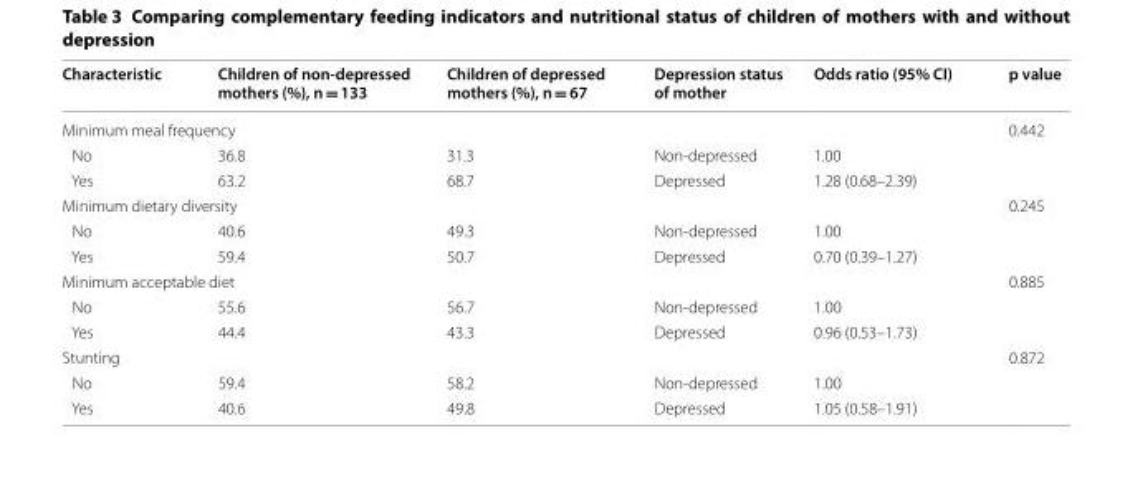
<table><thead><tr><td>Characteristic</td><td>Children of non-depressed mothers (%), n = 133</td><td>Children of depressed mothers (%), n = 67</td><td>Depression status of mother</td><td>Odds ratio (95% CI)</td><td>p value</td></tr></thead><tbody><tr><td colspan="5">Minimum meal frequency</td><td rowspan="3">0.442</td></tr><tr><td>No</td><td>36.8</td><td>31.3</td><td>Non-depressed</td><td>1.00</td></tr><tr><td>Yes</td><td>63.2</td><td>68.7</td><td>Depressed</td><td>1.28 (0.68–2.39)</td></tr><tr><td colspan="5">Minimum dietary diversity</td><td rowspan="3">0.245</td></tr><tr><td>No</td><td>40.6</td><td>49.3</td><td>Non-depressed</td><td>1.00</td></tr><tr><td>Yes</td><td>59.4</td><td>50.7</td><td>Depressed</td><td>0.70 (0.39–1.27)</td></tr><tr><td colspan="5">Minimum acceptable diet</td><td rowspan="3">0.885</td></tr><tr><td>No</td><td>55.6</td><td>56.7</td><td>Non-depressed</td><td>1.00</td></tr><tr><td>Yes</td><td>44.4</td><td>43.3</td><td>Depressed</td><td>0.96 (0.53–1.73)</td></tr><tr><td colspan="5">Stunting</td><td rowspan="3">0.872</td></tr><tr><td>No</td><td>59.4</td><td>58.2</td><td>Non-depressed</td><td>1.00</td></tr><tr><td>Yes</td><td>40.6</td><td>49.8</td><td>Depressed</td><td>1.05 (0.58–1.91)</td></tr></tbody></table>